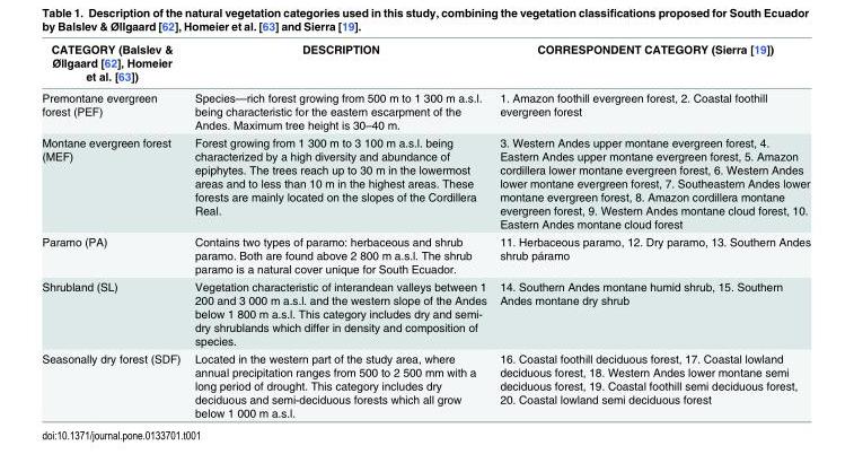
<table><thead><tr><td>CATEGORY (Balslev &amp; Øllgaard [62], Homeier et al. [63])</td><td>DESCRIPTION</td><td>CORRESPONDENT CATEGORY (Sierra [19])</td></tr></thead><tbody><tr><td>Premontane evergreen forest (PEF)</td><td>Species—rich forest growing from 500 m to 1 300 m a.s.l. being characteristic for the eastern escarpment of the Andes. Maximum tree height is 30–40 m.</td><td>1. Amazon foothill evergreen forest, 2. Coastal foothill evergreen forest</td></tr><tr><td>Montane evergreen forest (MEF)</td><td>Forest growing from 1 300 m to 3 100 m a.s.l. being characterized by a high diversity and abundance of epiphytes. The trees reach up to 30 m in the lowermost areas and to less than 10 m in the highest areas. These forests are mainly located on the slopes of the Cordillera Real.</td><td>3. Western Andes upper montane evergreen forest, 4. Eastern Andes upper montane evergreen forest, 5. Amazon cordillera lower montane evergreen forest, 6. Western Andes lower montane evergreen forest, 7. Southeastern Andes lower montane evergreen forest, 8. Amazon cordillera montane evergreen forest, 9. Western Andes montane cloud forest, 10. Eastern Andes montane cloud forest</td></tr><tr><td>Paramo (PA)</td><td>Contains two types of paramo: herbaceous and shrub paramo. Both are found above 2 800 m a.s.l. The shrub paramo is a natural cover unique for South Ecuador.</td><td>11. Herbaceous paramo, 12. Dry paramo, 13. Southern Andes shrub páramo</td></tr><tr><td>Shrubland (SL)</td><td>Vegetation characteristic of interandean valleys between 1 200 and 3 000 m a.s.l. and the western slope of the Andes below 1 800 m a.s.l. This category includes dry and semi- dry shrublands which differ in density and composition of species.</td><td>14. Southern Andes montane humid shrub, 15. Southern Andes montane dry shrub</td></tr><tr><td>Seasonally dry forest (SDF)</td><td>Located in the western part of the study area, where annual precipitation ranges from 500 to 2 500 mm with a long period of drought. This category includes dry deciduous and semi-deciduous forests which all grow below 1 000 m a.s.l.</td><td>16. Coastal foothill deciduous forest, 17. Coastal lowland deciduous forest, 18. Western Andes lower montane semi deciduous forest, 19. Coastal foothill semi deciduous forest, 20. Coastal lowland semi deciduous forest</td></tr></tbody></table>